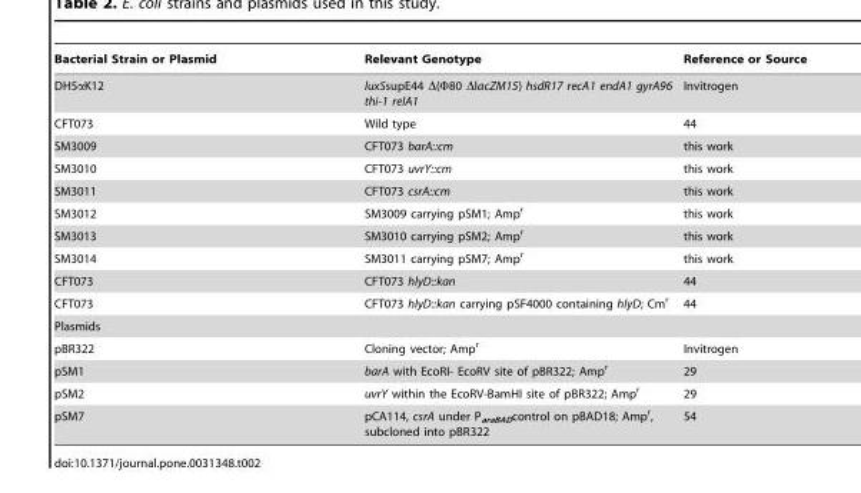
<table><thead><tr><td>Bacterial Strain or Plasmid</td><td>Relevant Genotype</td><td>Reference or Source</td></tr></thead><tbody><tr><td>DH5αK12</td><td>luxSsupE44 Δ(Ф80 ΔlacZM15) hsdR17 recA1 endA1 gyrA96 thi-1 relA1</td><td>Invitrogen</td></tr><tr><td>CFT073</td><td>Wild type</td><td>44</td></tr><tr><td>SM3009</td><td>CFT073 barA::cm</td><td>this work</td></tr><tr><td>SM3010</td><td>CFT073 uvrY::cm</td><td>this work</td></tr><tr><td>SM3011</td><td>CFT073 csrA::cm</td><td>this work</td></tr><tr><td>SM3012</td><td>SM3009 carrying pSM1; Amp<sup>r</sup></td><td>this work</td></tr><tr><td>SM3013</td><td>SM3010 carrying pSM2; Amp<sup>r</sup></td><td>this work</td></tr><tr><td>SM3014</td><td>SM3011 carrying pSM7; Amp<sup>r</sup></td><td>this work</td></tr><tr><td>CFT073</td><td>CFT073 hlyD::kan</td><td>44</td></tr><tr><td>CFT073</td><td>CFT073 hlyD::kan carrying pSF4000 containing hlyD; Cm<sup>r</sup></td><td>44</td></tr><tr><td colspan="3">Plasmids</td></tr><tr><td>pBR322</td><td>Cloning vector; Amp<sup>r</sup></td><td>Invitrogen</td></tr><tr><td>pSM1</td><td>barA with EcoRI- EcoRV site of pBR322; Amp<sup>r</sup></td><td>29</td></tr><tr><td>pSM2</td><td>uvrY within the EcoRV-BamHI site of pBR322; Amp<sup>r</sup></td><td>29</td></tr><tr><td>pSM7</td><td>pCA114, csrA under P<sub>araBAD</sub>control on pBAD18; Amp<sup>r</sup>, subcloned into pBR322</td><td>54</td></tr></tbody></table>